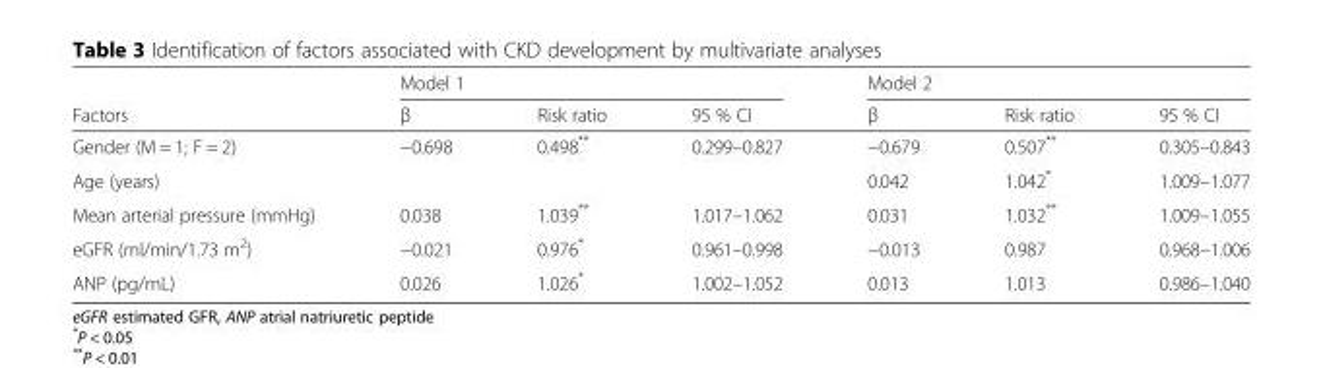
<table><thead><tr><td rowspan="2">Factors</td><td colspan="3">Model 1</td><td colspan="3">Model 2</td></tr><tr><td>β</td><td>Risk ratio</td><td>95 % CI</td><td>β</td><td>Risk ratio</td><td>95 % CI</td></tr></thead><tbody><tr><td>Gender (M = 1; F = 2)</td><td>−0.698</td><td>0.498**</td><td>0.299–0.827</td><td>−0.679</td><td>0.507**</td><td>0.305–0.843</td></tr><tr><td>Age (years)</td><td></td><td></td><td></td><td>0.042</td><td>1.042*</td><td>1.009–1.077</td></tr><tr><td>Mean arterial pressure (mmHg)</td><td>0.038</td><td>1.039**</td><td>1.017–1.062</td><td>0.031</td><td>1.032**</td><td>1.009–1.055</td></tr><tr><td>eGFR (ml/min/1.73 m<sup>2</sup>)</td><td>−0.021</td><td>0.976*</td><td>0.961–0.998</td><td>−0.013</td><td>0.987</td><td>0.968–1.006</td></tr><tr><td>ANP (pg/mL)</td><td>0.026</td><td>1.026*</td><td>1.002–1.052</td><td>0.013</td><td>1.013</td><td>0.986–1.040</td></tr></tbody></table>